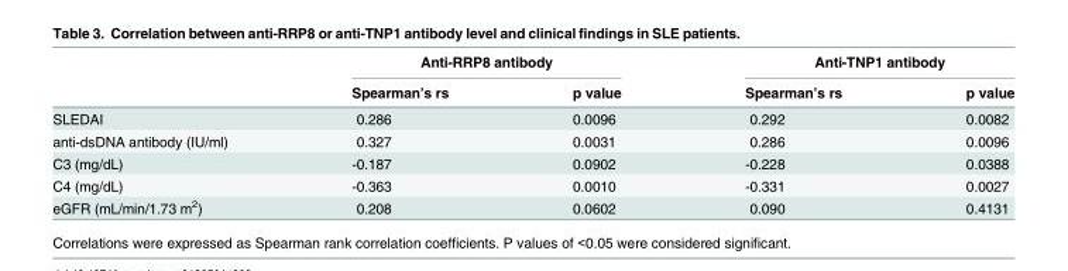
<table><thead><tr><td rowspan="2"></td><td colspan="2">Anti-RRP8 antibody</td><td colspan="2">Anti-TNP1 antibody</td></tr><tr><td>Spearman’s rs</td><td>p value</td><td>Spearman’s rs</td><td>p value</td></tr></thead><tbody><tr><td>SLEDAI</td><td>0.286</td><td>0.0096</td><td>0.292</td><td>0.0082</td></tr><tr><td>anti-dsDNA antibody (IU/ml)</td><td>0.327</td><td>0.0031</td><td>0.286</td><td>0.0096</td></tr><tr><td>C3 (mg/dL)</td><td>-0.187</td><td>0.0902</td><td>-0.228</td><td>0.0388</td></tr><tr><td>C4 (mg/dL)</td><td>-0.363</td><td>0.0010</td><td>-0.331</td><td>0.0027</td></tr><tr><td>eGFR (mL/min/1.73 m<sup>2</sup>)</td><td>0.208</td><td>0.0602</td><td>0.090</td><td>0.4131</td></tr></tbody></table>